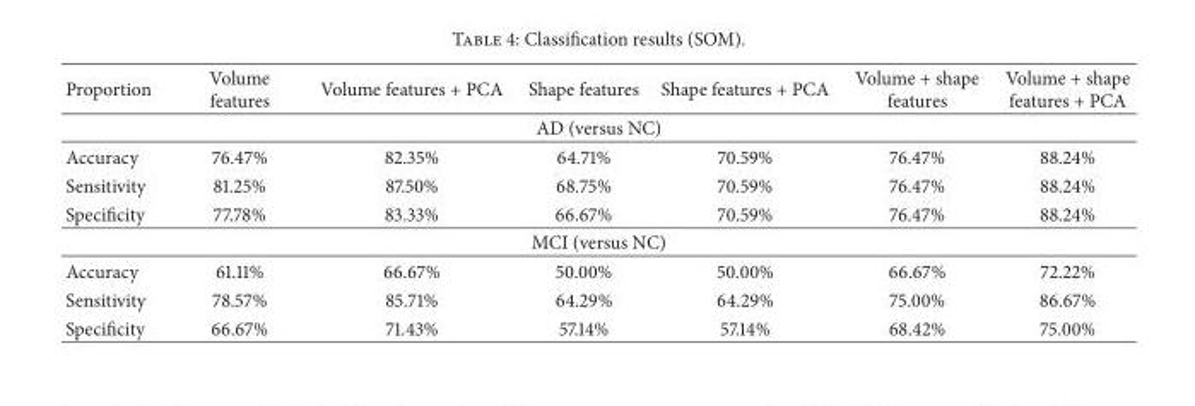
<table><thead><tr><td>Proportion</td><td>Volume features</td><td>Volume features + PCA</td><td>Shape features</td><td>Shape features + PCA</td><td>Volume + shape features</td><td>Volume + shape features + PCA</td></tr></thead><tbody><tr><td colspan="7">AD (versus NC)</td></tr><tr><td>Accuracy</td><td>76.47%</td><td>82.35%</td><td>64.71%</td><td>70.59%</td><td>76.47%</td><td>88.24%</td></tr><tr><td>Sensitivity</td><td>81.25%</td><td>87.50%</td><td>68.75%</td><td>70.59%</td><td>76.47%</td><td>88.24%</td></tr><tr><td>Specificity</td><td>77.78%</td><td>83.33%</td><td>66.67%</td><td>70.59%</td><td>76.47%</td><td>88.24%</td></tr><tr><td colspan="7">MCI (versus NC)</td></tr><tr><td>Accuracy</td><td>61.11%</td><td>66.67%</td><td>50.00%</td><td>50.00%</td><td>66.67%</td><td>72.22%</td></tr><tr><td>Sensitivity</td><td>78.57%</td><td>85.71%</td><td>64.29%</td><td>64.29%</td><td>75.00%</td><td>86.67%</td></tr><tr><td>Specificity</td><td>66.67%</td><td>71.43%</td><td>57.14%</td><td>57.14%</td><td>68.42%</td><td>75.00%</td></tr></tbody></table>